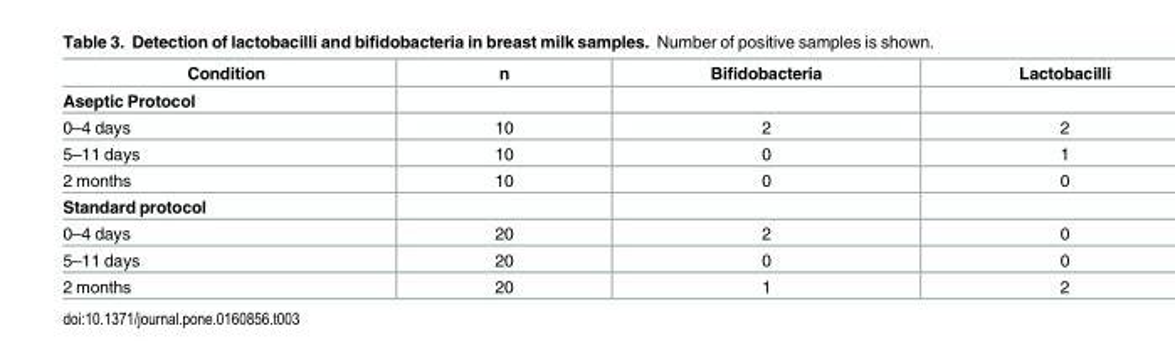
<table><thead><tr><td>Condition</td><td>n</td><td>Bifidobacteria</td><td>Lactobacilli</td></tr></thead><tbody><tr><td colspan="4">Aseptic Protocol</td></tr><tr><td>0–4 days</td><td>10</td><td>2</td><td>2</td></tr><tr><td>5–11 days</td><td>10</td><td>0</td><td>1</td></tr><tr><td>2 months</td><td>10</td><td>0</td><td>0</td></tr><tr><td colspan="4">Standard protocol</td></tr><tr><td>0–4 days</td><td>20</td><td>2</td><td>0</td></tr><tr><td>5–11 days</td><td>20</td><td>0</td><td>0</td></tr><tr><td>2 months</td><td>20</td><td>1</td><td>2</td></tr></tbody></table>